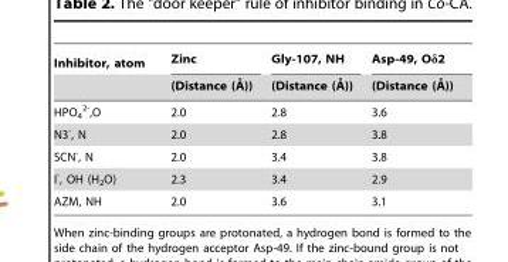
<table><thead><tr><td rowspan="2">Inhibitor, atom</td><td rowspan="2">Zinc (Distance (A˚))</td><td rowspan="2">Gly-107, NH (Distance (A˚ ))</td><td rowspan="2">Asp-49, Od2 (Distance (A˚ ))</td></tr><tr></tr></thead><tbody><tr><td>HPO<sub>4</sub> <sup>2-</sup>,O</td><td>2.0</td><td>2.8</td><td>3.6</td></tr><tr><td>N3<sup>-</sup>, N</td><td>2.0</td><td>2.8</td><td>3.8</td></tr><tr><td>SCN<sup>-</sup>, N</td><td>2.0</td><td>3.4</td><td>3.8</td></tr><tr><td>I<sup>-</sup>, OH (H<sub>2</sub>O)</td><td>2.3</td><td>3.4</td><td>2.9</td></tr><tr><td>AZM, NH</td><td>2.0</td><td>3.6</td><td>3.1</td></tr></tbody></table>